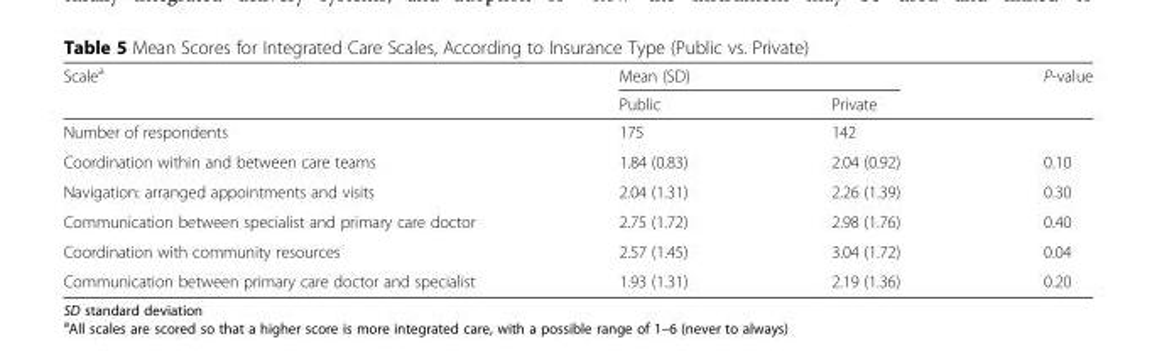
<table><thead><tr><td rowspan="2">Scale<sup>a</sup></td><td colspan="2">Mean (SD)</td><td rowspan="2">P-value</td></tr><tr><td>Public</td><td>Private</td></tr></thead><tbody><tr><td>Number of respondents</td><td>175</td><td>142</td><td></td></tr><tr><td>Coordination within and between care teams</td><td>1.84 (0.83)</td><td>2.04 (0.92)</td><td>0.10</td></tr><tr><td>Navigation: arranged appointments and visits</td><td>2.04 (1.31)</td><td>2.26 (1.39)</td><td>0.30</td></tr><tr><td>Communication between specialist and primary care doctor</td><td>2.75 (1.72)</td><td>2.98 (1.76)</td><td>0.40</td></tr><tr><td>Coordination with community resources</td><td>2.57 (1.45)</td><td>3.04 (1.72)</td><td>0.04</td></tr><tr><td>Communication between primary care doctor and specialist</td><td>1.93 (1.31)</td><td>2.19 (1.36)</td><td>0.20</td></tr></tbody></table>